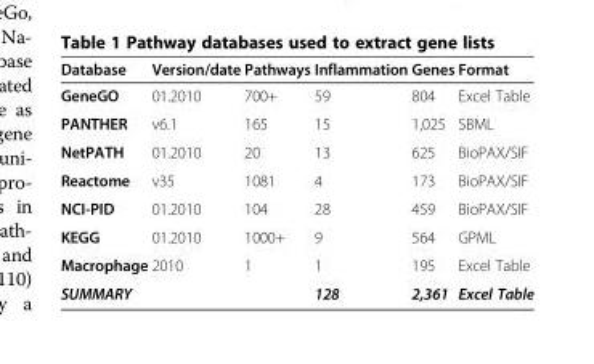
<table><thead><tr><td>Database</td><td>Version/date</td><td>Pathways</td><td>Inflammation</td><td>Genes</td><td>Format</td></tr></thead><tbody><tr><td>GeneGO</td><td>01.2010</td><td>700+</td><td>59</td><td>804</td><td>Excel Table</td></tr><tr><td>PANTHER</td><td>v6.1</td><td>165</td><td>15</td><td>1,025</td><td>SBML</td></tr><tr><td>NetPATH</td><td>01.2010</td><td>20</td><td>13</td><td>625</td><td>BioPAX/SIF</td></tr><tr><td>Reactome</td><td>v35</td><td>1081</td><td>4</td><td>173</td><td>BioPAX/SIF</td></tr><tr><td>NCI-PID</td><td>01.2010</td><td>104</td><td>28</td><td>459</td><td>BioPAX/SIF</td></tr><tr><td>KEGG</td><td>01.2010</td><td>1000+</td><td>9</td><td>564</td><td>GPML</td></tr><tr><td>Macrophage</td><td>2010</td><td>1</td><td>1</td><td>195</td><td>Excel Table</td></tr><tr><td>SUMMARY</td><td></td><td></td><td>128</td><td>2,361</td><td>Excel Table</td></tr></tbody></table>